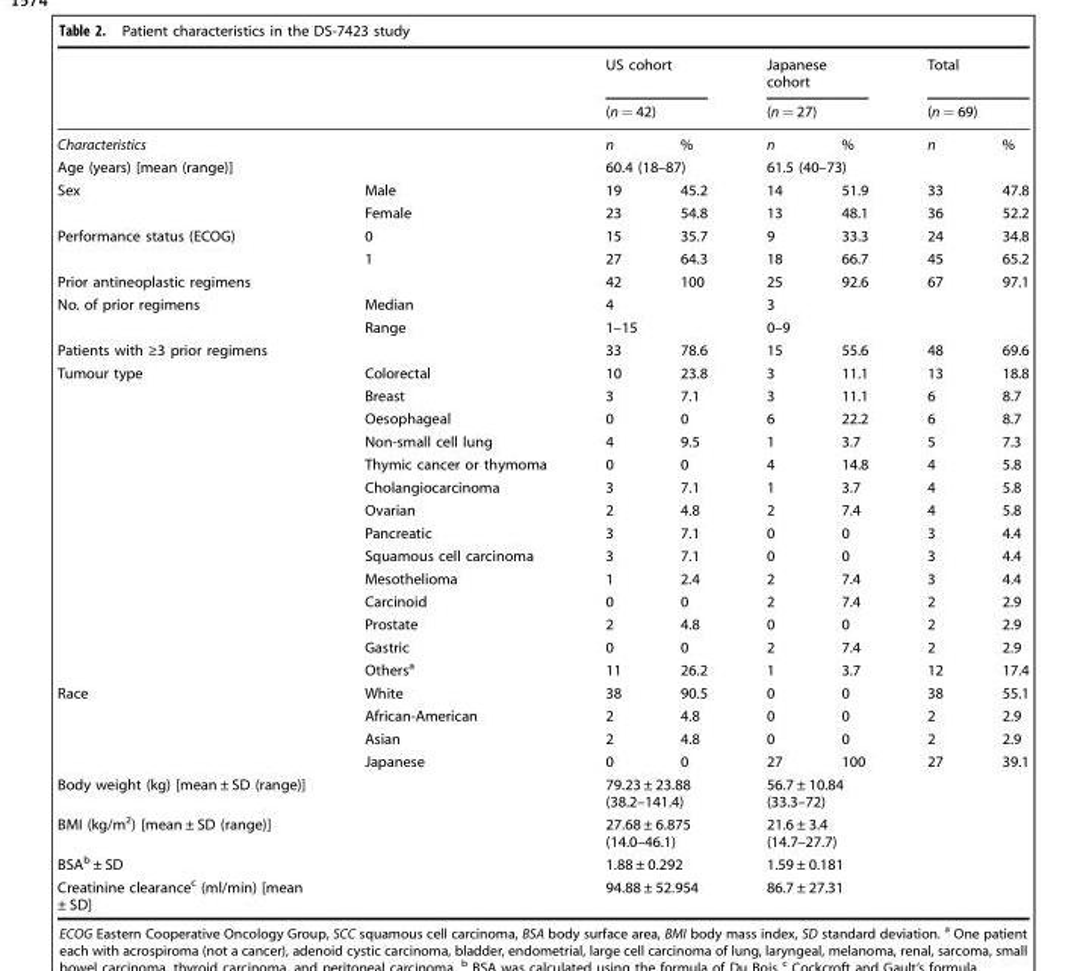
<table><thead><tr><td rowspan="3">Characteristics</td><td rowspan="3"></td><td rowspan="2" colspan="2">US cohort (n = 42)</td><td rowspan="2" colspan="2">Japanese cohort (n = 27)</td><td rowspan="2" colspan="2">Total (n = 69)</td></tr><tr></tr><tr><td>n</td><td>%</td><td>n</td><td>%</td><td>n</td><td>%</td></tr></thead><tbody><tr><td>Age (years) [mean (range)]</td><td></td><td colspan="2">60.4 (18–87)</td><td colspan="2">61.5 (40–73)</td><td></td><td></td></tr><tr><td rowspan="2">Sex</td><td>Male</td><td>19</td><td>45.2</td><td>14</td><td>51.9</td><td>33</td><td>47.8</td></tr><tr><td>Female</td><td>23</td><td>54.8</td><td>13</td><td>48.1</td><td>36</td><td>52.2</td></tr><tr><td rowspan="2">Performance status (ECOG)</td><td>0</td><td>15</td><td>35.7</td><td>9</td><td>33.3</td><td>24</td><td>34.8</td></tr><tr><td>1</td><td>27</td><td>64.3</td><td>18</td><td>66.7</td><td>45</td><td>65.2</td></tr><tr><td>Prior antineoplastic regimens</td><td></td><td>42</td><td>100</td><td>25</td><td>92.6</td><td>67</td><td>97.1</td></tr><tr><td rowspan="2">No. of prior regimens</td><td>Median</td><td colspan="2">4</td><td colspan="2">3</td><td></td><td></td></tr><tr><td>Range</td><td colspan="2">1–15</td><td colspan="2">0–9</td><td></td><td></td></tr><tr><td>Patients with ≥3 prior regimens</td><td></td><td>33</td><td>78.6</td><td>15</td><td>55.6</td><td>48</td><td>69.6</td></tr><tr><td rowspan="14">Tumour type</td><td>Colorectal</td><td>10</td><td>23.8</td><td>3</td><td>11.1</td><td>13</td><td>18.8</td></tr><tr><td>Breast</td><td>3</td><td>7.1</td><td>3</td><td>11.1</td><td>6</td><td>8.7</td></tr><tr><td>Oesophageal</td><td>0</td><td>0</td><td>6</td><td>22.2</td><td>6</td><td>8.7</td></tr><tr><td>Non-small cell lung</td><td>4</td><td>9.5</td><td>1</td><td>3.7</td><td>5</td><td>7.3</td></tr><tr><td>Thymic cancer or thymoma</td><td>0</td><td>0</td><td>4</td><td>14.8</td><td>4</td><td>5.8</td></tr><tr><td>Cholangiocarcinoma</td><td>3</td><td>7.1</td><td>1</td><td>3.7</td><td>4</td><td>5.8</td></tr><tr><td>Ovarian</td><td>2</td><td>4.8</td><td>2</td><td>7.4</td><td>4</td><td>5.8</td></tr><tr><td>Pancreatic</td><td>3</td><td>7.1</td><td>0</td><td>0</td><td>3</td><td>4.4</td></tr><tr><td>Squamous cell carcinoma</td><td>3</td><td>7.1</td><td>0</td><td>0</td><td>3</td><td>4.4</td></tr><tr><td>Mesothelioma</td><td>1</td><td>2.4</td><td>2</td><td>7.4</td><td>3</td><td>4.4</td></tr><tr><td>Carcinoid</td><td>0</td><td>0</td><td>2</td><td>7.4</td><td>2</td><td>2.9</td></tr><tr><td>Prostate</td><td>2</td><td>4.8</td><td>0</td><td>0</td><td>2</td><td>2.9</td></tr><tr><td>Gastric</td><td>0</td><td>0</td><td>2</td><td>7.4</td><td>2</td><td>2.9</td></tr><tr><td>Others<sup>a</sup></td><td>11</td><td>26.2</td><td>1</td><td>3.7</td><td>12</td><td>17.4</td></tr><tr><td rowspan="4">Race</td><td>White</td><td>38</td><td>90.5</td><td>0</td><td>0</td><td>38</td><td>55.1</td></tr><tr><td>African-American</td><td>2</td><td>4.8</td><td>0</td><td>0</td><td>2</td><td>2.9</td></tr><tr><td>Asian</td><td>2</td><td>4.8</td><td>0</td><td>0</td><td>2</td><td>2.9</td></tr><tr><td>Japanese</td><td>0</td><td>0</td><td>27</td><td>100</td><td>27</td><td>39.1</td></tr><tr><td>Body weight (kg) [mean ± SD (range)]</td><td></td><td colspan="2">79.23 ± 23.88 (38.2–141.4)</td><td colspan="2">56.7 ± 10.84 (33.3–72)</td><td colspan="2"></td></tr><tr><td>BMI (kg/m<sup>2</sup>) [mean ± SD (range)]</td><td></td><td colspan="2">27.68 ± 6.875 (14.0–46.1)</td><td colspan="2">21.6 ± 3.4 (14.7–27.7)</td><td colspan="2"></td></tr><tr><td>BSA<sup>b</sup> ± SD</td><td></td><td colspan="2">1.88 ± 0.292</td><td colspan="2">1.59 ± 0.181</td><td colspan="2"></td></tr><tr><td>Creatinine clearance<sup>c</sup> (ml/min) [mean ± SD]</td><td></td><td colspan="2">94.88 ± 52.954</td><td colspan="2">86.7 ± 27.31</td><td colspan="2"></td></tr></tbody></table>